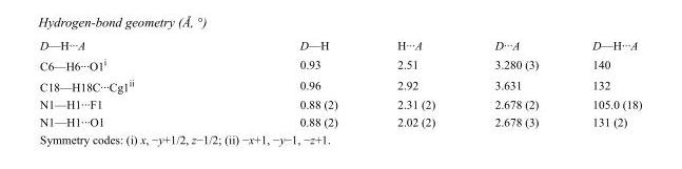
<table><tbody><tr><td>D—H···A</td><td>D—H</td><td>H···A</td><td>D···A</td><td>D—H···A</td></tr><tr><td>C6—H6···O1<sup>i</sup></td><td>0.93</td><td>2.51</td><td>3.280 (3)</td><td>140</td></tr><tr><td>C18—H18C···Cg1<sup>ii</sup></td><td>0.96</td><td>2.92</td><td>3.631</td><td>132</td></tr><tr><td>N1—H1···F1</td><td>0.88 (2)</td><td>2.31 (2)</td><td>2.678 (2)</td><td>105.0 (18)</td></tr><tr><td>N1—H1···O1</td><td>0.88 (2)</td><td>2.02 (2)</td><td>2.678 (3)</td><td>131 (2)</td></tr></tbody></table>